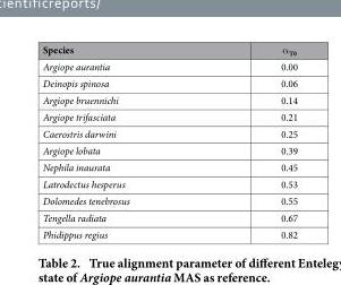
<table><thead><tr><td>Species</td><td>α <sub>T0</sub></td></tr></thead><tbody><tr><td>Argiope aurantia</td><td>0.00</td></tr><tr><td>Deinopis spinosa</td><td>0.06</td></tr><tr><td>Argiope bruennichi</td><td>0.14</td></tr><tr><td>Argiope trifasciata</td><td>0.21</td></tr><tr><td>Caerostris darwini</td><td>0.25</td></tr><tr><td>Argiope lobata</td><td>0.39</td></tr><tr><td>Nephila inaurata</td><td>0.45</td></tr><tr><td>Latrodectus hesperus</td><td>0.53</td></tr><tr><td>Dolomedes tenebrosus</td><td>0.55</td></tr><tr><td>Tengella radiata</td><td>0.67</td></tr><tr><td>Phidippus regius</td><td>0.82</td></tr></tbody></table>